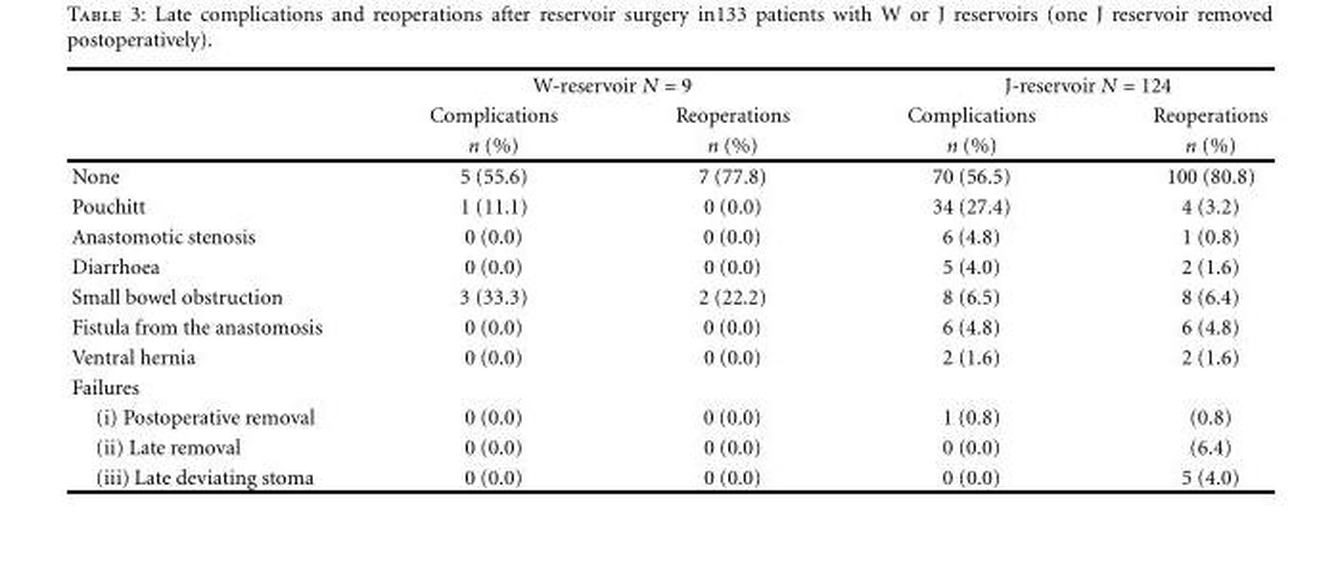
<table><thead><tr><td rowspan="3"></td><td colspan="2">W-reservoir N = 9</td><td colspan="2">J-reservoir N = 124</td></tr><tr><td rowspan="2">Complications n (%)</td><td rowspan="2">Reoperations n (%)</td><td rowspan="2">Complications n (%)</td><td rowspan="2">Reoperations n (%)</td></tr><tr></tr></thead><tbody><tr><td>None</td><td>5 (55.6)</td><td>7 (77.8)</td><td>70 (56.5)</td><td>100 (80.8)</td></tr><tr><td>Pouchitt</td><td>1 (11.1)</td><td>0 (0.0)</td><td>34 (27.4)</td><td>4 (3.2)</td></tr><tr><td>Anastomotic stenosis</td><td>0 (0.0)</td><td>0 (0.0)</td><td>6 (4.8)</td><td>1 (0.8)</td></tr><tr><td>Diarrhoea</td><td>0 (0.0)</td><td>0 (0.0)</td><td>5 (4.0)</td><td>2 (1.6)</td></tr><tr><td>Small bowel obstruction</td><td>3 (33.3)</td><td>2 (22.2)</td><td>8 (6.5)</td><td>8 (6.4)</td></tr><tr><td>Fistula from the anastomosis</td><td>0 (0.0)</td><td>0 (0.0)</td><td>6 (4.8)</td><td>6 (4.8)</td></tr><tr><td>Ventral hernia</td><td>0 (0.0)</td><td>0 (0.0)</td><td>2 (1.6)</td><td>2 (1.6)</td></tr><tr><td colspan="5">Failures</td></tr><tr><td>(i) Postoperative removal</td><td>0 (0.0)</td><td>0 (0.0)</td><td>1 (0.8)</td><td>(0.8)</td></tr><tr><td>(ii) Late removal</td><td>0 (0.0)</td><td>0 (0.0)</td><td>0 (0.0)</td><td>(6.4)</td></tr><tr><td>(iii) Late deviating stoma</td><td>0 (0.0)</td><td>0 (0.0)</td><td>0 (0.0)</td><td>5 (4.0)</td></tr></tbody></table>